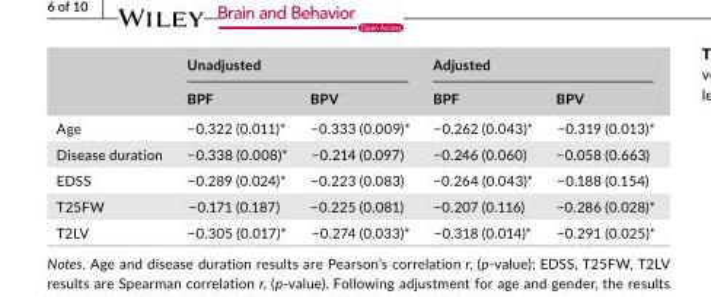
<table><thead><tr><td rowspan="2"></td><td colspan="2">Unadjusted</td><td colspan="2">Adjusted</td></tr><tr><td>BPF</td><td>BPV</td><td>BPF</td><td>BPV</td></tr></thead><tbody><tr><td>Age</td><td>−0.322 (0.011)*</td><td>−0.333 (0.009)*</td><td>−0.262 (0.043)*</td><td>−0.319 (0.013)*</td></tr><tr><td>Disease duration</td><td>−0.338 (0.008)*</td><td>−0.214 (0.097)</td><td>−0.246 (0.060)</td><td>−0.058 (0.663)</td></tr><tr><td>EDSS</td><td>−0.289 (0.024)*</td><td>−0.223 (0.083)</td><td>−0.264 (0.043)*</td><td>−0.188 (0.154)</td></tr><tr><td>T25FW</td><td>−0.171 (0.187)</td><td>−0.225 (0.081)</td><td>−0.207 (0.116)</td><td>−0.286 (0.028)*</td></tr><tr><td>T2LV</td><td>−0.305 (0.017)*</td><td>−0.274 (0.033)*</td><td>−0.318 (0.014)*</td><td>−0.291 (0.025)*</td></tr></tbody></table>